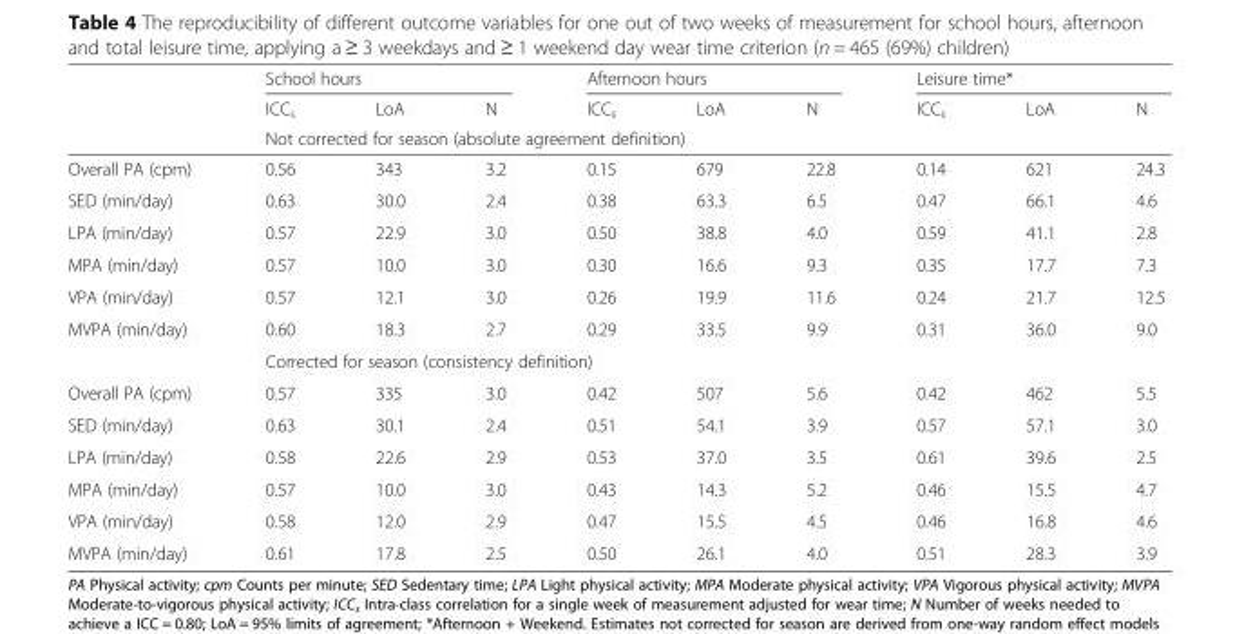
<table><thead><tr><td rowspan="3"></td><td colspan="3">School hours</td><td colspan="3">Afternoon hours</td><td colspan="3">Leisure time*</td></tr><tr><td>ICC<sub>s</sub></td><td>LoA</td><td>N</td><td>ICC<sub>s</sub></td><td>LoA</td><td>N</td><td>ICC<sub>s</sub></td><td>LoA</td><td>N</td></tr><tr><td colspan="9">Not corrected for season (absolute agreement definition)</td></tr></thead><tbody><tr><td>Overall PA (cpm)</td><td>0.56</td><td>343</td><td>3.2</td><td>0.15</td><td>679</td><td>22.8</td><td>0.14</td><td>621</td><td>24.3</td></tr><tr><td>SED (min/day)</td><td>0.63</td><td>30.0</td><td>2.4</td><td>0.38</td><td>63.3</td><td>6.5</td><td>0.47</td><td>66.1</td><td>4.6</td></tr><tr><td>LPA (min/day)</td><td>0.57</td><td>22.9</td><td>3.0</td><td>0.50</td><td>38.8</td><td>4.0</td><td>0.59</td><td>41.1</td><td>2.8</td></tr><tr><td>MPA (min/day)</td><td>0.57</td><td>10.0</td><td>3.0</td><td>0.30</td><td>16.6</td><td>9.3</td><td>0.35</td><td>17.7</td><td>7.3</td></tr><tr><td>VPA (min/day)</td><td>0.57</td><td>12.1</td><td>3.0</td><td>0.26</td><td>19.9</td><td>11.6</td><td>0.24</td><td>21.7</td><td>12.5</td></tr><tr><td rowspan="2">MVPA (min/day)</td><td>0.60</td><td>18.3</td><td>2.7</td><td>0.29</td><td>33.5</td><td>9.9</td><td>0.31</td><td>36.0</td><td>9.0</td></tr><tr><td colspan="9">Corrected for season (consistency definition)</td></tr><tr><td>Overall PA (cpm)</td><td>0.57</td><td>335</td><td>3.0</td><td>0.42</td><td>507</td><td>5.6</td><td>0.42</td><td>462</td><td>5.5</td></tr><tr><td>SED (min/day)</td><td>0.63</td><td>30.1</td><td>2.4</td><td>0.51</td><td>54.1</td><td>3.9</td><td>0.57</td><td>57.1</td><td>3.0</td></tr><tr><td>LPA (min/day)</td><td>0.58</td><td>22.6</td><td>2.9</td><td>0.53</td><td>37.0</td><td>3.5</td><td>0.61</td><td>39.6</td><td>2.5</td></tr><tr><td>MPA (min/day)</td><td>0.57</td><td>10.0</td><td>3.0</td><td>0.43</td><td>14.3</td><td>5.2</td><td>0.46</td><td>15.5</td><td>4.7</td></tr><tr><td>VPA (min/day)</td><td>0.58</td><td>12.0</td><td>2.9</td><td>0.47</td><td>15.5</td><td>4.5</td><td>0.46</td><td>16.8</td><td>4.6</td></tr><tr><td>MVPA (min/day)</td><td>0.61</td><td>17.8</td><td>2.5</td><td>0.50</td><td>26.1</td><td>4.0</td><td>0.51</td><td>28.3</td><td>3.9</td></tr></tbody></table>